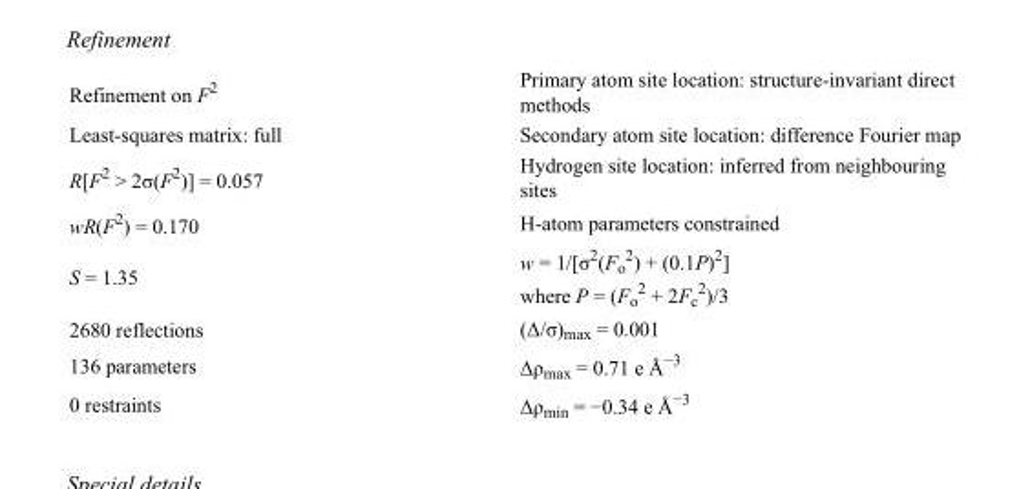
<table><tbody><tr><td>Refinement on F<sup>2</sup></td><td>Primary atom site location: structure-invariant direct methods</td></tr><tr><td>Least-squares matrix: full</td><td>Secondary atom site location: difference Fourier map</td></tr><tr><td>R[F<sup>2</sup> &gt; 2σ(F<sup>2</sup>)] = 0.057</td><td>Hydrogen site location: inferred from neighbouring sites</td></tr><tr><td>wR(F<sup>2</sup>) = 0.170</td><td>H-atom parameters constrained</td></tr><tr><td>S = 1.35</td><td>w = 1/[σ<sup>2</sup>(F<sub>o</sub> <sup>2</sup>) + (0.1P)<sup>2</sup>] where P = (F<sub>o</sub> <sup>2</sup> + 2F<sub>c</sub> <sup>2</sup>)/3</td></tr><tr><td>2680 reflections</td><td>(Δ/σ)<sub>max</sub> = 0.001</td></tr><tr><td>136 parameters</td><td>Δρ<sub>max</sub> = 0.71 e Å<sup>−3</sup></td></tr><tr><td>0 restraints</td><td>Δρ<sub>min</sub> = −0.34 e Å<sup>−3</sup></td></tr></tbody></table>